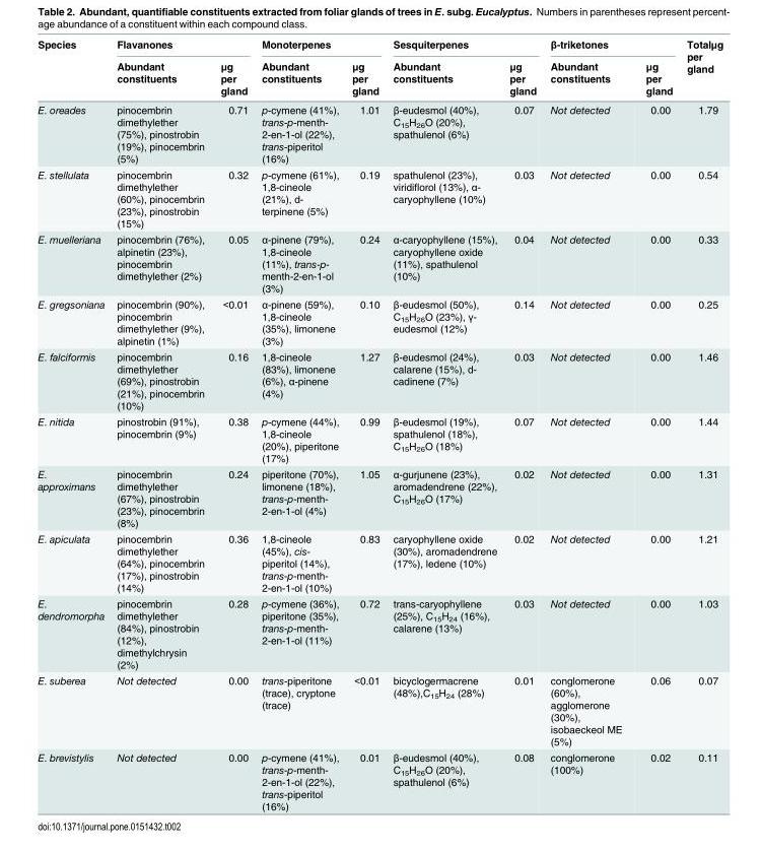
<table><thead><tr><td rowspan="2">Species</td><td colspan="2">Flavanones</td><td colspan="2">Monoterpenes</td><td colspan="2">Sesquiterpenes</td><td colspan="2">β-triketones</td><td rowspan="2">Totalμg per gland</td></tr><tr><td>Abundant constituents</td><td>μg per gland</td><td>Abundant constituents</td><td>μg per gland</td><td>Abundant constituents</td><td>μg per gland</td><td>Abundant constituents</td><td>μg per gland</td></tr></thead><tbody><tr><td>E. oreades</td><td>pinocembrin dimethylether (75%), pinostrobin (19%), pinocembrin (5%)</td><td>0.71</td><td>p-cymene (41%), trans-p-menth- 2-en-1-ol (22%), trans-piperitol (16%)</td><td>1.01</td><td>β-eudesmol (40%), C<sub>15</sub>H<sub>26</sub>O (20%), spathulenol (6%)</td><td>0.07</td><td>Not detected</td><td>0.00</td><td>1.79</td></tr><tr><td>E. stellulata</td><td>pinocembrin dimethylether (60%), pinocembrin (23%), pinostrobin (15%)</td><td>0.32</td><td>p-cymene (61%), 1,8-cineole (21%), d- terpinene (5%)</td><td>0.19</td><td>spathulenol (23%), viridiflorol (13%), α- caryophyllene (10%)</td><td>0.03</td><td>Not detected</td><td>0.00</td><td>0.54</td></tr><tr><td>E. muelleriana</td><td>pinocembrin (76%), alpinetin (23%), pinocembrin dimethylether (2%)</td><td>0.05</td><td>α-pinene (79%), 1,8-cineole (11%), trans-p- menth-2-en-1-ol (3%)</td><td>0.24</td><td>α-caryophyllene (15%), caryophyllene oxide (11%), spathulenol (10%)</td><td>0.04</td><td>Not detected</td><td>0.00</td><td>0.33</td></tr><tr><td>E. gregsoniana</td><td>pinocembrin (90%), pinocembrin dimethylether (9%), alpinetin (1%)</td><td>&lt;0.01</td><td>α-pinene (59%), 1,8-cineole (35%), limonene (3%)</td><td>0.10</td><td>β-eudesmol (50%), C<sub>15</sub>H<sub>26</sub>O (23%), γ- eudesmol (12%)</td><td>0.14</td><td>Not detected</td><td>0.00</td><td>0.25</td></tr><tr><td>E. falciformis</td><td>pinocembrin dimethylether (69%), pinostrobin (21%), pinocembrin (10%)</td><td>0.16</td><td>1,8-cineole (83%), limonene (6%), α-pinene (4%)</td><td>1.27</td><td>β-eudesmol (24%), calarene (15%), d- cadinene (7%)</td><td>0.03</td><td>Not detected</td><td>0.00</td><td>1.46</td></tr><tr><td>E. nitida</td><td>pinostrobin (91%), pinocembrin (9%)</td><td>0.38</td><td>p-cymene (44%), 1,8-cineole (20%), piperitone (17%)</td><td>0.99</td><td>β-eudesmol (19%), spathulenol (18%), C<sub>15</sub>H<sub>26</sub>O (18%)</td><td>0.07</td><td>Not detected</td><td>0.00</td><td>1.44</td></tr><tr><td>E. approximans</td><td>pinocembrin dimethylether (67%), pinostrobin (23%), pinocembrin (8%)</td><td>0.24</td><td>piperitone (70%), limonene (18%), trans-p-menth- 2-en-1-ol (4%)</td><td>1.05</td><td>α-gurjunene (23%), aromadendrene (22%), C<sub>15</sub>H<sub>26</sub>O (17%)</td><td>0.02</td><td>Not detected</td><td>0.00</td><td>1.31</td></tr><tr><td>E. apiculata</td><td>pinocembrin dimethylether (64%), pinocembrin (17%), pinostrobin (14%)</td><td>0.36</td><td>1,8-cineole (45%), cis- piperitol (14%), trans-p-menth- 2-en-1-ol (10%)</td><td>0.83</td><td>caryophyllene oxide (30%), aromadendrene (17%), ledene (10%)</td><td>0.02</td><td>Not detected</td><td>0.00</td><td>1.21</td></tr><tr><td>E. dendromorpha</td><td>pinocembrin dimethylether (84%), pinostrobin (12%), dimethylchrysin (2%)</td><td>0.28</td><td>p-cymene (36%), piperitone (35%), trans-p-menth- 2-en-1-ol (11%)</td><td>0.72</td><td>trans-caryophyllene (25%), C<sub>15</sub>H<sub>24</sub> (16%), calarene (13%)</td><td>0.03</td><td>Not detected</td><td>0.00</td><td>1.03</td></tr><tr><td>E. suberea</td><td>Not detected</td><td>0.00</td><td>trans-piperitone (trace), cryptone (trace)</td><td>&lt;0.01</td><td>bicyclogermacrene (48%),C<sub>15</sub>H<sub>24</sub> (28%)</td><td>0.01</td><td>conglomerone (60%), agglomerone (30%), isobaeckeol ME (5%)</td><td>0.06</td><td>0.07</td></tr><tr><td>E. brevistylis</td><td>Not detected</td><td>0.00</td><td>p-cymene (41%), trans-p-menth- 2-en-1-ol (22%), trans-piperitol (16%)</td><td>0.01</td><td>β-eudesmol (40%), C<sub>15</sub>H<sub>26</sub>O (20%), spathulenol (6%)</td><td>0.08</td><td>conglomerone (100%)</td><td>0.02</td><td>0.11</td></tr></tbody></table>